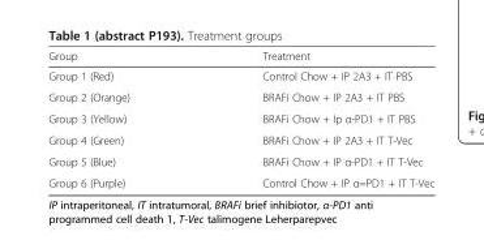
<table><thead><tr><td>Group</td><td>Treatment</td></tr></thead><tbody><tr><td>Group 1 (Red)</td><td>Control Chow + IP 2A3 + IT PBS</td></tr><tr><td>Group 2 (Orange)</td><td>BRAFi Chow + IP 2A3 + IT PBS</td></tr><tr><td>Group 3 (Yellow)</td><td>BRAFi Chow + Ip α-PD1 + IT PBS</td></tr><tr><td>Group 4 (Green)</td><td>BRAFi Chow + IP 2A3 + IT T-Vec</td></tr><tr><td>Group 5 (Blue)</td><td>BRAFi Chow + IP α-PD1 + IT T-Vec</td></tr><tr><td>Group 6 (Purple)</td><td>Control Chow + IP α=PD1 + IT T-Vec</td></tr></tbody></table>